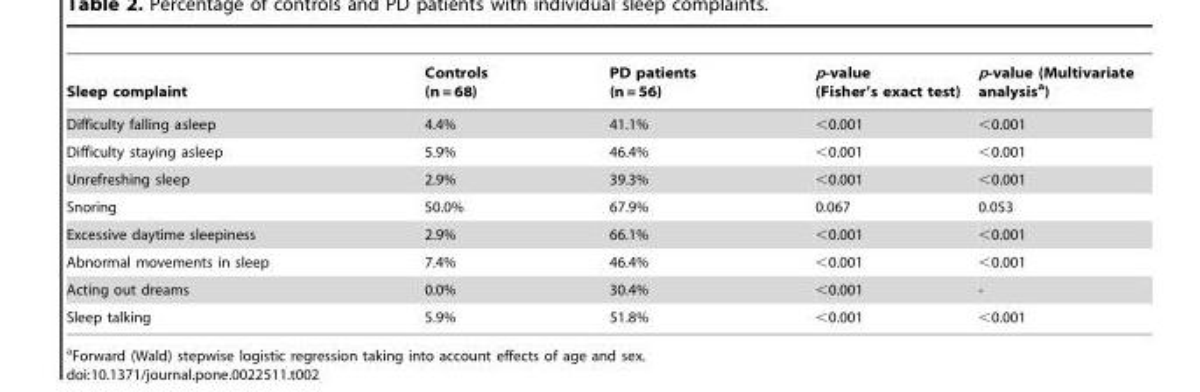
<table><thead><tr><td>Sleep complaint</td><td>Controls (n = 68)</td><td>PD patients (n = 56)</td><td>p-value (Fisher’s exact test)</td><td>p-value (Multivariate analysis<sup>a</sup>)</td></tr></thead><tbody><tr><td>Difficulty falling asleep</td><td>4.4%</td><td>41.1%</td><td>&lt;0.001</td><td>&lt;0.001</td></tr><tr><td>Difficulty staying asleep</td><td>5.9%</td><td>46.4%</td><td>&lt;0.001</td><td>&lt;0.001</td></tr><tr><td>Unrefreshing sleep</td><td>2.9%</td><td>39.3%</td><td>&lt;0.001</td><td>&lt;0.001</td></tr><tr><td>Snoring</td><td>50.0%</td><td>67.9%</td><td>0.067</td><td>0.053</td></tr><tr><td>Excessive daytime sleepiness</td><td>2.9%</td><td>66.1%</td><td>&lt;0.001</td><td>&lt;0.001</td></tr><tr><td>Abnormal movements in sleep</td><td>7.4%</td><td>46.4%</td><td>&lt;0.001</td><td>&lt;0.001</td></tr><tr><td>Acting out dreams</td><td>0.0%</td><td>30.4%</td><td>&lt;0.001</td><td>-</td></tr><tr><td>Sleep talking</td><td>5.9%</td><td>51.8%</td><td>&lt;0.001</td><td>&lt;0.001</td></tr></tbody></table>